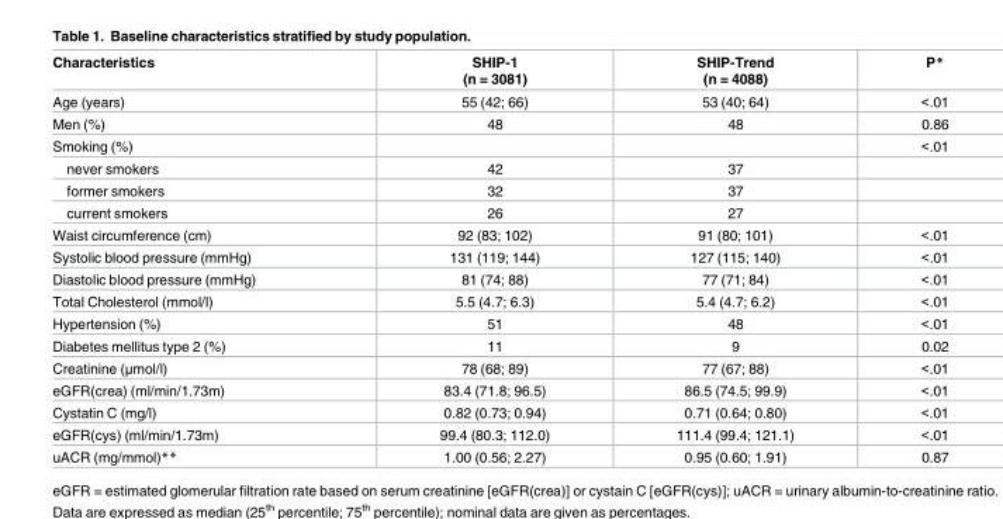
<table><thead><tr><td>Characteristics</td><td>SHIP-1 (n = 3081)</td><td>SHIP-Trend (n = 4088)</td><td>P*</td></tr></thead><tbody><tr><td>Age (years)</td><td>55 (42; 66)</td><td>53 (40; 64)</td><td>&lt;.01</td></tr><tr><td>Men (%)</td><td>48</td><td>48</td><td>0.86</td></tr><tr><td>Smoking (%)</td><td></td><td></td><td>&lt;.01</td></tr><tr><td>never smokers</td><td>42</td><td>37</td><td></td></tr><tr><td>former smokers</td><td>32</td><td>37</td><td></td></tr><tr><td>current smokers</td><td>26</td><td>27</td><td></td></tr><tr><td>Waist circumference (cm)</td><td>92 (83; 102)</td><td>91 (80; 101)</td><td>&lt;.01</td></tr><tr><td>Systolic blood pressure (mmHg)</td><td>131 (119; 144)</td><td>127 (115; 140)</td><td>&lt;.01</td></tr><tr><td>Diastolic blood pressure (mmHg)</td><td>81 (74; 88)</td><td>77 (71; 84)</td><td>&lt;.01</td></tr><tr><td>Total Cholesterol (mmol/l)</td><td>5.5 (4.7; 6.3)</td><td>5.4 (4.7; 6.2)</td><td>&lt;.01</td></tr><tr><td>Hypertension (%)</td><td>51</td><td>48</td><td>&lt;.01</td></tr><tr><td>Diabetes mellitus type 2 (%)</td><td>11</td><td>9</td><td>0.02</td></tr><tr><td>Creatinine (μmol/l)</td><td>78 (68; 89)</td><td>77 (67; 88)</td><td>&lt;.01</td></tr><tr><td>eGFR(crea) (ml/min/1.73m)</td><td>83.4 (71.8; 96.5)</td><td>86.5 (74.5; 99.9)</td><td>&lt;.01</td></tr><tr><td>Cystatin C (mg/l)</td><td>0.82 (0.73; 0.94)</td><td>0.71 (0.64; 0.80)</td><td>&lt;.01</td></tr><tr><td>eGFR(cys) (ml/min/1.73m)</td><td>99.4 (80.3; 112.0)</td><td>111.4 (99.4; 121.1)</td><td>&lt;.01</td></tr><tr><td>uACR (mg/mmol)**</td><td>1.00 (0.56; 2.27)</td><td>0.95 (0.60; 1.91)</td><td>0.87</td></tr></tbody></table>